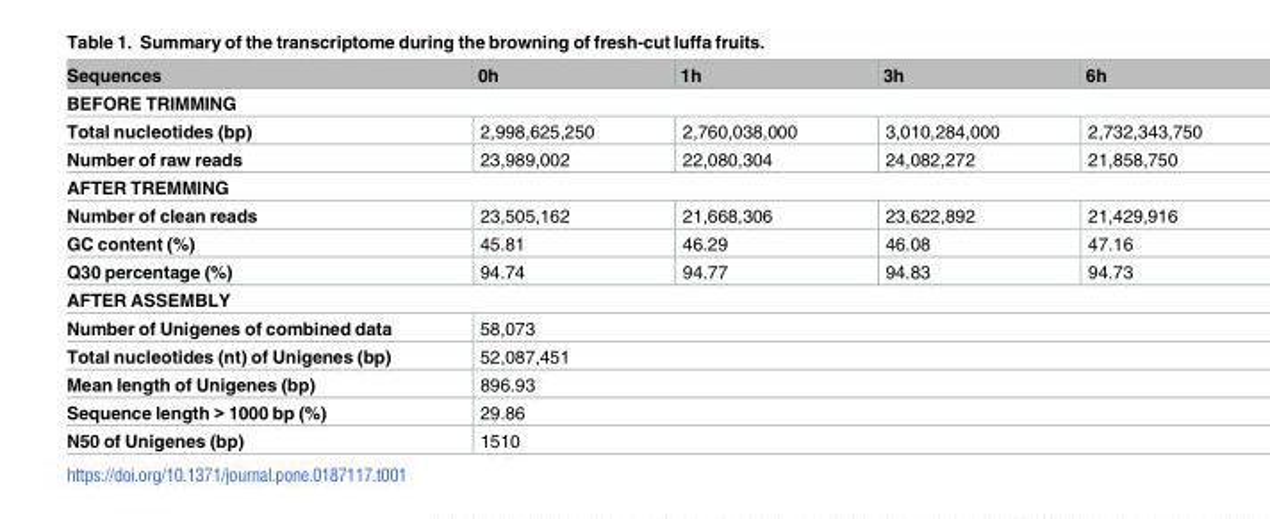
<table><thead><tr><td>Sequences</td><td>0h</td><td>1h</td><td>3h</td><td>6h</td></tr></thead><tbody><tr><td colspan="5">BEFORE TRIMMING</td></tr><tr><td>Total nucleotides (bp)</td><td>2,998,625,250</td><td>2,760,038,000</td><td>3,010,284,000</td><td>2,732,343,750</td></tr><tr><td>Number of raw reads</td><td>23,989,002</td><td>22,080,304</td><td>24,082,272</td><td>21,858,750</td></tr><tr><td colspan="5">AFTER TREMMING</td></tr><tr><td>Number of clean reads</td><td>23,505,162</td><td>21,668,306</td><td>23,622,892</td><td>21,429,916</td></tr><tr><td>GC content (%)</td><td>45.81</td><td>46.29</td><td>46.08</td><td>47.16</td></tr><tr><td>Q30 percentage (%)</td><td>94.74</td><td>94.77</td><td>94.83</td><td>94.73</td></tr><tr><td colspan="5">AFTER ASSEMBLY</td></tr><tr><td>Number of Unigenes of combined data</td><td colspan="4">58,073</td></tr><tr><td>Total nucleotides (nt) of Unigenes (bp)</td><td colspan="4">52,087,451</td></tr><tr><td>Mean length of Unigenes (bp)</td><td colspan="4">896.93</td></tr><tr><td>Sequence length &gt; 1000 bp (%)</td><td colspan="4">29.86</td></tr><tr><td>N50 of Unigenes (bp)</td><td colspan="4">1510</td></tr></tbody></table>